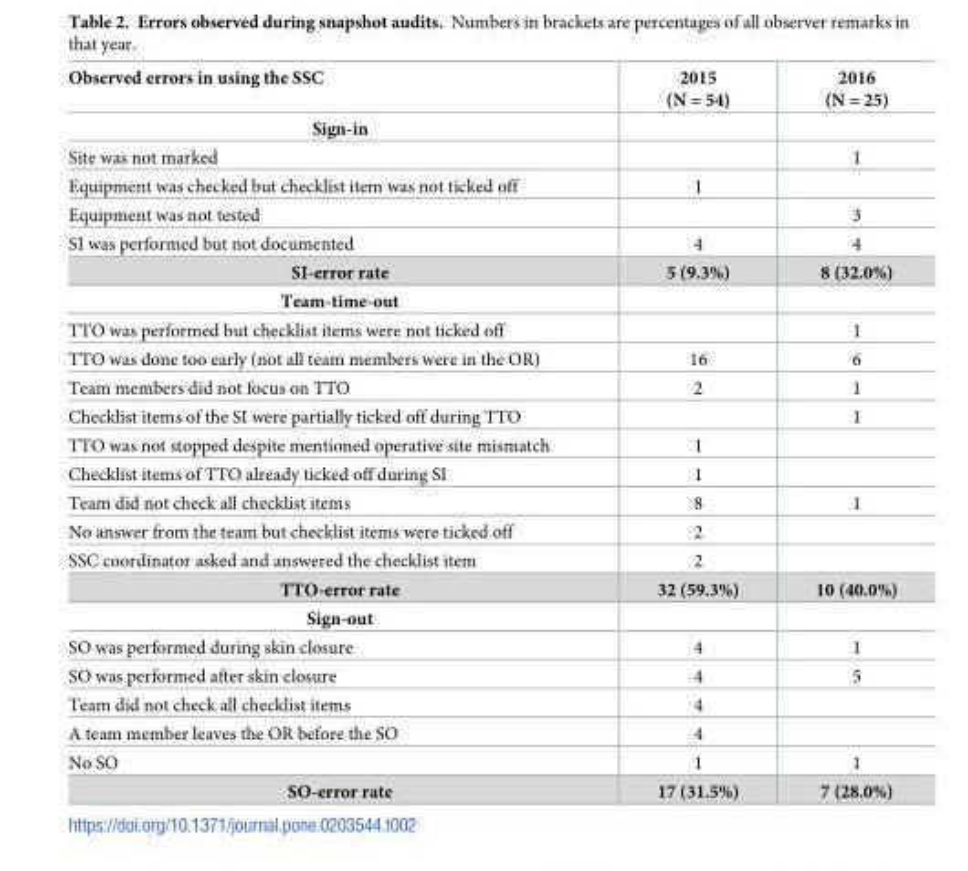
<table><thead><tr><td>Observed errors in using the SSC</td><td>2015 (N = 54)</td><td>2016 (N = 25)</td></tr></thead><tbody><tr><td colspan="3">Sign-in</td></tr><tr><td>Site was not marked</td><td></td><td>1</td></tr><tr><td>Equipment was checked but checklist item was not ticked off</td><td>1</td><td></td></tr><tr><td>Equipment was not tested</td><td></td><td>3</td></tr><tr><td>SI was performed but not documented</td><td>4</td><td>4</td></tr><tr><td>SI-error rate</td><td>5 (9.3%)</td><td>8 (32.0%)</td></tr><tr><td colspan="3">Team-time-out</td></tr><tr><td>TTO was performed but checklist items were not ticked off</td><td></td><td>1</td></tr><tr><td>TTO was done too early (not all team members were in the OR)</td><td>16</td><td>6</td></tr><tr><td>Team members did not focus on TTO</td><td>2</td><td>1</td></tr><tr><td>Checklist items of the SI were partially ticked off during TTO</td><td></td><td>1</td></tr><tr><td>TTO was not stopped despite mentioned operative site mismatch</td><td>1</td><td></td></tr><tr><td>Checklist items of TTO already ticked off during SI</td><td>1</td><td></td></tr><tr><td>Team did not check all checklist items</td><td>8</td><td>1</td></tr><tr><td>No answer from the team but checklist items were ticked off</td><td>2</td><td></td></tr><tr><td>SSC coordinator asked and answered the checklist item</td><td>2</td><td></td></tr><tr><td>TTO-error rate</td><td>32 (59.3%)</td><td>10 (40.0%)</td></tr><tr><td colspan="3">Sign-out</td></tr><tr><td>SO was performed during skin closure</td><td>4</td><td>1</td></tr><tr><td>SO was performed after skin closure</td><td>4</td><td>5</td></tr><tr><td>Team did not check all checklist items</td><td>4</td><td></td></tr><tr><td>A team member leaves the OR before the SO</td><td>4</td><td></td></tr><tr><td>No SO</td><td>1</td><td>1</td></tr><tr><td>SO-error rate</td><td>17 (31.5%)</td><td>7 (28.0%)</td></tr></tbody></table>